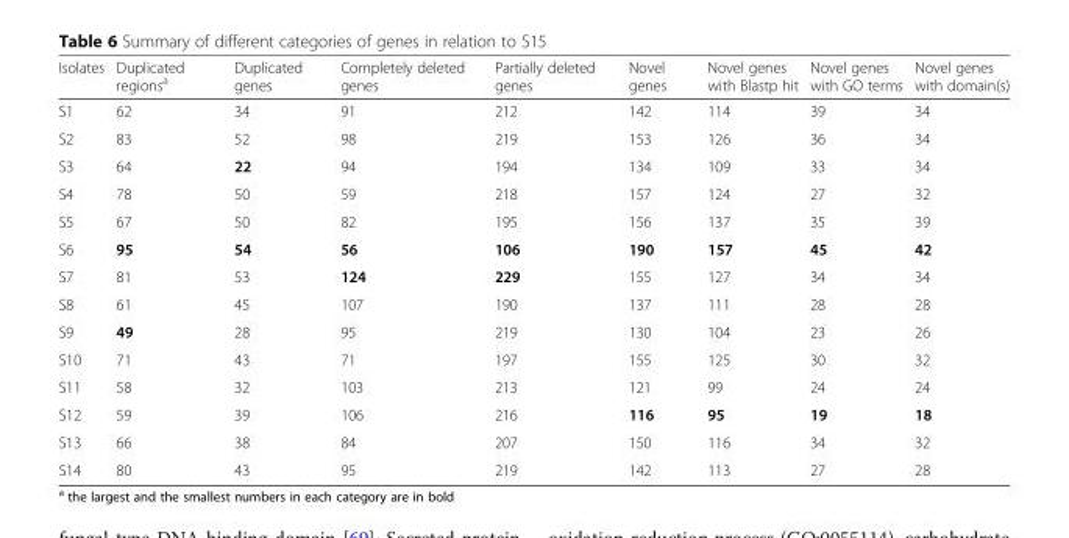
<table><thead><tr><td>Isolates</td><td>Duplicated regions<sup>a</sup></td><td>Duplicated genes</td><td>Completely deleted genes</td><td>Partially deleted genes</td><td>Novel genes</td><td>Novel genes with Blastp hit</td><td>Novel genes with GO terms</td><td>Novel genes with domain(s)</td></tr></thead><tbody><tr><td>S1</td><td>62</td><td>34</td><td>91</td><td>212</td><td>142</td><td>114</td><td>39</td><td>34</td></tr><tr><td>S2</td><td>83</td><td>52</td><td>98</td><td>219</td><td>153</td><td>126</td><td>36</td><td>34</td></tr><tr><td>S3</td><td>64</td><td>22</td><td>94</td><td>194</td><td>134</td><td>109</td><td>33</td><td>34</td></tr><tr><td>S4</td><td>78</td><td>50</td><td>59</td><td>218</td><td>157</td><td>124</td><td>27</td><td>32</td></tr><tr><td>S5</td><td>67</td><td>50</td><td>82</td><td>195</td><td>156</td><td>137</td><td>35</td><td>39</td></tr><tr><td>S6</td><td>95</td><td>54</td><td>56</td><td>106</td><td>190</td><td>157</td><td>45</td><td>42</td></tr><tr><td>S7</td><td>81</td><td>53</td><td>124</td><td>229</td><td>155</td><td>127</td><td>34</td><td>34</td></tr><tr><td>S8</td><td>61</td><td>45</td><td>107</td><td>190</td><td>137</td><td>111</td><td>28</td><td>28</td></tr><tr><td>S9</td><td>49</td><td>28</td><td>95</td><td>219</td><td>130</td><td>104</td><td>23</td><td>26</td></tr><tr><td>S10</td><td>71</td><td>43</td><td>71</td><td>197</td><td>155</td><td>125</td><td>30</td><td>32</td></tr><tr><td>S11</td><td>58</td><td>32</td><td>103</td><td>213</td><td>121</td><td>99</td><td>24</td><td>24</td></tr><tr><td>S12</td><td>59</td><td>39</td><td>106</td><td>216</td><td>116</td><td>95</td><td>19</td><td>18</td></tr><tr><td>S13</td><td>66</td><td>38</td><td>84</td><td>207</td><td>150</td><td>116</td><td>34</td><td>32</td></tr><tr><td>S14</td><td>80</td><td>43</td><td>95</td><td>219</td><td>142</td><td>113</td><td>27</td><td>28</td></tr></tbody></table>